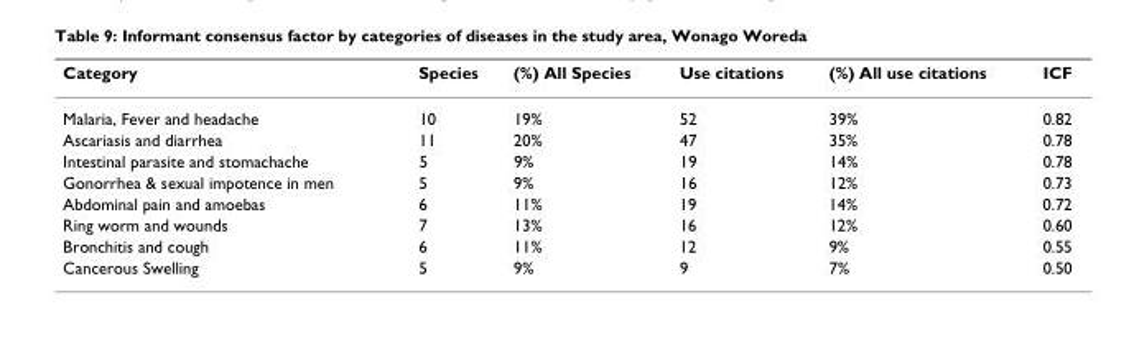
<table><thead><tr><td>Category</td><td>Species</td><td>(%) All Species</td><td>Use citations</td><td>(%) All use citations</td><td>ICF</td></tr></thead><tbody><tr><td>Malaria, Fever and headache</td><td>10</td><td>19%</td><td>52</td><td>39%</td><td>0.82</td></tr><tr><td>Ascariasis and diarrhea</td><td>11</td><td>20%</td><td>47</td><td>35%</td><td>0.78</td></tr><tr><td>Intestinal parasite and stomachache</td><td>5</td><td>9%</td><td>19</td><td>14%</td><td>0.78</td></tr><tr><td>Gonorrhea &amp; sexual impotence in men</td><td>5</td><td>9%</td><td>16</td><td>12%</td><td>0.73</td></tr><tr><td>Abdominal pain and amoebas</td><td>6</td><td>11%</td><td>19</td><td>14%</td><td>0.72</td></tr><tr><td>Ring worm and wounds</td><td>7</td><td>13%</td><td>16</td><td>12%</td><td>0.60</td></tr><tr><td>Bronchitis and cough</td><td>6</td><td>11%</td><td>12</td><td>9%</td><td>0.55</td></tr><tr><td>Cancerous Swelling</td><td>5</td><td>9%</td><td>9</td><td>7%</td><td>0.50</td></tr></tbody></table>